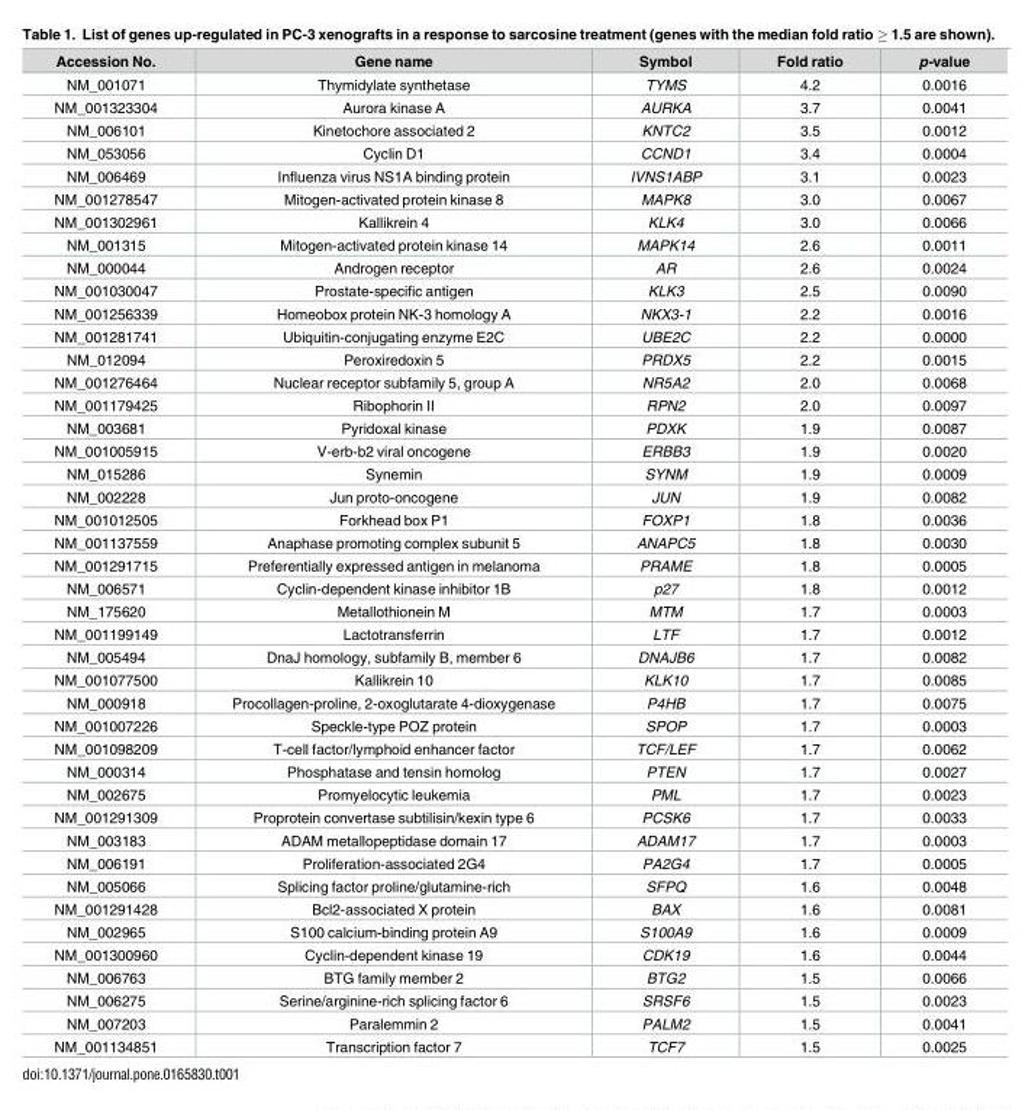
<table><thead><tr><td>Accession No.</td><td>Gene name</td><td>Symbol</td><td>Fold ratio</td><td>p-value</td></tr></thead><tbody><tr><td>NM_001071</td><td>Thymidylate synthetase</td><td>TYMS</td><td>4.2</td><td>0.0016</td></tr><tr><td>NM_001323304</td><td>Aurora kinase A</td><td>AURKA</td><td>3.7</td><td>0.0041</td></tr><tr><td>NM_006101</td><td>Kinetochore associated 2</td><td>KNTC2</td><td>3.5</td><td>0.0012</td></tr><tr><td>NM_053056</td><td>Cyclin D1</td><td>CCND1</td><td>3.4</td><td>0.0004</td></tr><tr><td>NM_006469</td><td>Influenza virus NS1A binding protein</td><td>IVNS1ABP</td><td>3.1</td><td>0.0023</td></tr><tr><td>NM_001278547</td><td>Mitogen-activated protein kinase 8</td><td>MAPK8</td><td>3.0</td><td>0.0067</td></tr><tr><td>NM_001302961</td><td>Kallikrein 4</td><td>KLK4</td><td>3.0</td><td>0.0066</td></tr><tr><td>NM_001315</td><td>Mitogen-activated protein kinase 14</td><td>MAPK14</td><td>2.6</td><td>0.0011</td></tr><tr><td>NM_000044</td><td>Androgen receptor</td><td>AR</td><td>2.6</td><td>0.0024</td></tr><tr><td>NM_001030047</td><td>Prostate-specific antigen</td><td>KLK3</td><td>2.5</td><td>0.0090</td></tr><tr><td>NM_001256339</td><td>Homeobox protein NK-3 homology A</td><td>NKX3-1</td><td>2.2</td><td>0.0016</td></tr><tr><td>NM_001281741</td><td>Ubiquitin-conjugating enzyme E2C</td><td>UBE2C</td><td>2.2</td><td>0.0000</td></tr><tr><td>NM_012094</td><td>Peroxiredoxin 5</td><td>PRDX5</td><td>2.2</td><td>0.0015</td></tr><tr><td>NM_001276464</td><td>Nuclear receptor subfamily 5, group A</td><td>NR5A2</td><td>2.0</td><td>0.0068</td></tr><tr><td>NM_001179425</td><td>Ribophorin II</td><td>RPN2</td><td>2.0</td><td>0.0097</td></tr><tr><td>NM_003681</td><td>Pyridoxal kinase</td><td>PDXK</td><td>1.9</td><td>0.0087</td></tr><tr><td>NM_001005915</td><td>V-erb-b2 viral oncogene</td><td>ERBB3</td><td>1.9</td><td>0.0020</td></tr><tr><td>NM_015286</td><td>Synemin</td><td>SYNM</td><td>1.9</td><td>0.0009</td></tr><tr><td>NM_002228</td><td>Jun proto-oncogene</td><td>JUN</td><td>1.9</td><td>0.0082</td></tr><tr><td>NM_001012505</td><td>Forkhead box P1</td><td>FOXP1</td><td>1.8</td><td>0.0036</td></tr><tr><td>NM_001137559</td><td>Anaphase promoting complex subunit 5</td><td>ANAPC5</td><td>1.8</td><td>0.0030</td></tr><tr><td>NM_001291715</td><td>Preferentially expressed antigen in melanoma</td><td>PRAME</td><td>1.8</td><td>0.0005</td></tr><tr><td>NM_006571</td><td>Cyclin-dependent kinase inhibitor 1B</td><td>p27</td><td>1.8</td><td>0.0012</td></tr><tr><td>NM_175620</td><td>Metallothionein M</td><td>MTM</td><td>1.7</td><td>0.0003</td></tr><tr><td>NM_001199149</td><td>Lactotransferrin</td><td>LTF</td><td>1.7</td><td>0.0012</td></tr><tr><td>NM_005494</td><td>DnaJ homology, subfamily B, member 6</td><td>DNAJB6</td><td>1.7</td><td>0.0082</td></tr><tr><td>NM_001077500</td><td>Kallikrein 10</td><td>KLK10</td><td>1.7</td><td>0.0085</td></tr><tr><td>NM_000918</td><td>Procollagen-proline, 2-oxoglutarate 4-dioxygenase</td><td>P4HB</td><td>1.7</td><td>0.0075</td></tr><tr><td>NM_001007226</td><td>Speckle-type POZ protein</td><td>SPOP</td><td>1.7</td><td>0.0003</td></tr><tr><td>NM_001098209</td><td>T-cell factor/lymphoid enhancer factor</td><td>TCF/LEF</td><td>1.7</td><td>0.0062</td></tr><tr><td>NM_000314</td><td>Phosphatase and tensin homolog</td><td>PTEN</td><td>1.7</td><td>0.0027</td></tr><tr><td>NM_002675</td><td>Promyelocytic leukemia</td><td>PML</td><td>1.7</td><td>0.0023</td></tr><tr><td>NM_001291309</td><td>Proprotein convertase subtilisin/kexin type 6</td><td>PCSK6</td><td>1.7</td><td>0.0033</td></tr><tr><td>NM_003183</td><td>ADAM metallopeptidase domain 17</td><td>ADAM17</td><td>1.7</td><td>0.0003</td></tr><tr><td>NM_006191</td><td>Proliferation-associated 2G4</td><td>PA2G4</td><td>1.7</td><td>0.0005</td></tr><tr><td>NM_005066</td><td>Splicing factor proline/glutamine-rich</td><td>SFPQ</td><td>1.6</td><td>0.0048</td></tr><tr><td>NM_001291428</td><td>Bcl2-associated X protein</td><td>BAX</td><td>1.6</td><td>0.0081</td></tr><tr><td>NM_002965</td><td>S100 calcium-binding protein A9</td><td>S100A9</td><td>1.6</td><td>0.0009</td></tr><tr><td>NM_001300960</td><td>Cyclin-dependent kinase 19</td><td>CDK19</td><td>1.6</td><td>0.0044</td></tr><tr><td>NM_006763</td><td>BTG family member 2</td><td>BTG2</td><td>1.5</td><td>0.0066</td></tr><tr><td>NM_006275</td><td>Serine/arginine-rich splicing factor 6</td><td>SRSF6</td><td>1.5</td><td>0.0023</td></tr><tr><td>NM_007203</td><td>Paralemmin 2</td><td>PALM2</td><td>1.5</td><td>0.0041</td></tr><tr><td>NM_001134851</td><td>Transcription factor 7</td><td>TCF7</td><td>1.5</td><td>0.0025</td></tr></tbody></table>